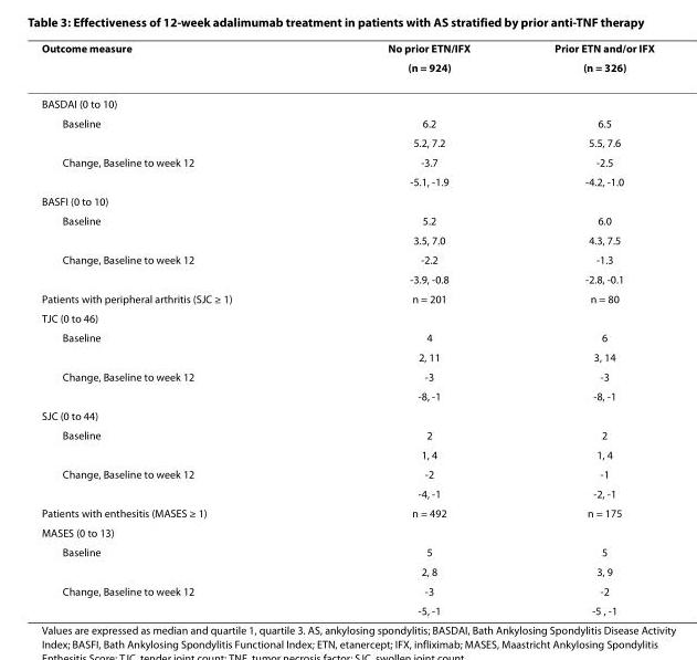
<table><thead><tr><td rowspan="2">Outcome measure</td><td rowspan="2">No prior ETN/IFX (n = 924)</td><td rowspan="2">Prior ETN and/or IFX (n = 326)</td></tr><tr></tr></thead><tbody><tr><td colspan="3">BASDAI (0 to 10)</td></tr><tr><td rowspan="2">Baseline</td><td>6.2</td><td>6.5</td></tr><tr><td>5.2, 7.2</td><td>5.5, 7.6</td></tr><tr><td rowspan="2">Change, Baseline to week 12</td><td>-3.7</td><td>-2.5</td></tr><tr><td>-5.1, -1.9</td><td>-4.2, -1.0</td></tr><tr><td colspan="3">BASFI (0 to 10)</td></tr><tr><td rowspan="2">Baseline</td><td>5.2</td><td>6.0</td></tr><tr><td>3.5, 7.0</td><td>4.3, 7.5</td></tr><tr><td rowspan="2">Change, Baseline to week 12</td><td>-2.2</td><td>-1.3</td></tr><tr><td>-3.9, -0.8</td><td>-2.8, -0.1</td></tr><tr><td>Patients with peripheral arthritis (SJC ≥ 1)</td><td>n = 201</td><td>n = 80</td></tr><tr><td colspan="3">TJC (0 to 46)</td></tr><tr><td rowspan="2">Baseline</td><td>4</td><td>6</td></tr><tr><td>2, 11</td><td>3, 14</td></tr><tr><td rowspan="2">Change, Baseline to week 12</td><td>-3</td><td>-3</td></tr><tr><td>-8, -1</td><td>-8, -1</td></tr><tr><td colspan="3">SJC (0 to 44)</td></tr><tr><td rowspan="2">Baseline</td><td>2</td><td>2</td></tr><tr><td>1, 4</td><td>1, 4</td></tr><tr><td rowspan="2">Change, Baseline to week 12</td><td>-2</td><td>-1</td></tr><tr><td>-4, -1</td><td>-2, -1</td></tr><tr><td>Patients with enthesitis (MASES ≥ 1)</td><td>n = 492</td><td>n = 175</td></tr><tr><td colspan="3">MASES (0 to 13)</td></tr><tr><td rowspan="2">Baseline</td><td>5</td><td>5</td></tr><tr><td>2, 8</td><td>3, 9</td></tr><tr><td rowspan="2">Change, Baseline to week 12</td><td>-3</td><td>-2</td></tr><tr><td>-5, -1</td><td>-5 , -1</td></tr></tbody></table>